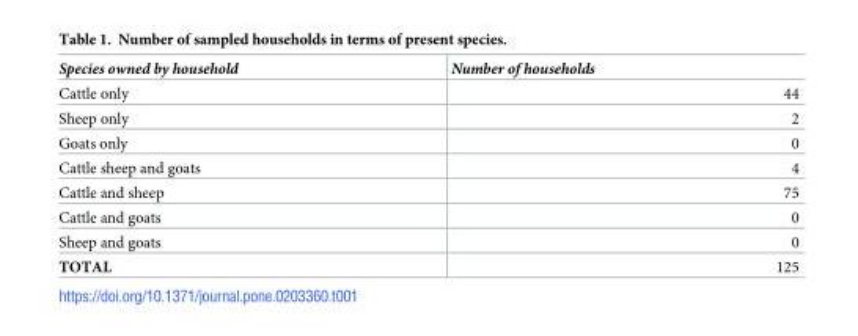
<table><thead><tr><td>Species owned by household</td><td>Number of households</td></tr></thead><tbody><tr><td>Cattle only</td><td>44</td></tr><tr><td>Sheep only</td><td>2</td></tr><tr><td>Goats only</td><td>0</td></tr><tr><td>Cattle sheep and goats</td><td>4</td></tr><tr><td>Cattle and sheep</td><td>75</td></tr><tr><td>Cattle and goats</td><td>0</td></tr><tr><td>Sheep and goats</td><td>0</td></tr><tr><td>TOTAL</td><td>125</td></tr></tbody></table>